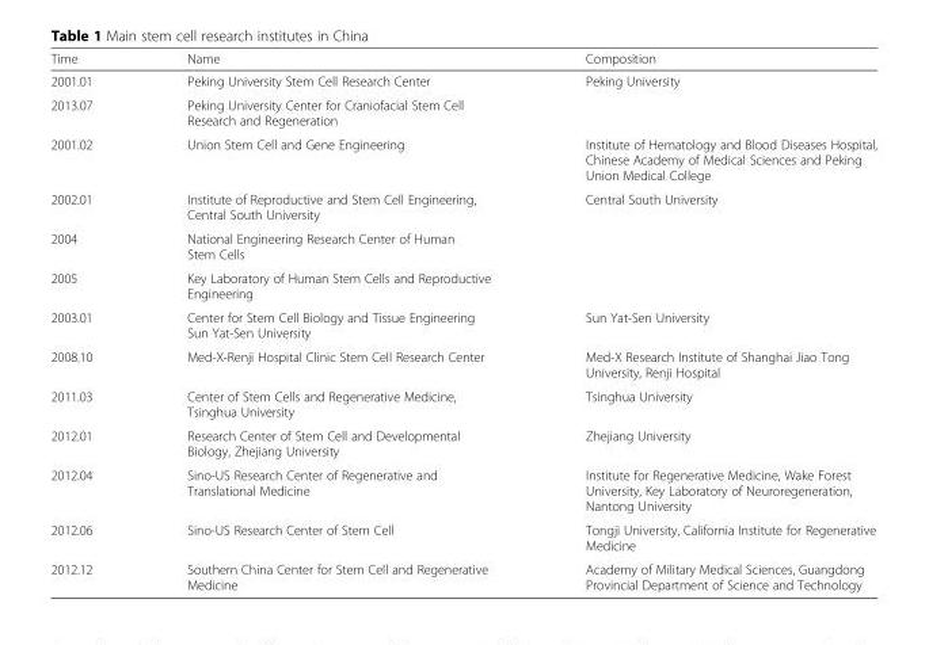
<table><thead><tr><td>Time</td><td>Name</td><td>Composition</td></tr></thead><tbody><tr><td>2001.01</td><td>Peking University Stem Cell Research Center</td><td rowspan="2">Peking University</td></tr><tr><td>2013.07</td><td>Peking University Center for Craniofacial Stem Cell Research and Regeneration</td></tr><tr><td>2001.02</td><td>Union Stem Cell and Gene Engineering</td><td>Institute of Hematology and Blood Diseases Hospital, Chinese Academy of Medical Sciences and Peking Union Medical College</td></tr><tr><td>2002.01</td><td>Institute of Reproductive and Stem Cell Engineering, Central South University</td><td rowspan="3">Central South University</td></tr><tr><td>2004</td><td>National Engineering Research Center of Human Stem Cells</td></tr><tr><td>2005</td><td>Key Laboratory of Human Stem Cells and Reproductive Engineering</td></tr><tr><td>2003.01</td><td>Center for Stem Cell Biology and Tissue Engineering Sun Yat-Sen University</td><td>Sun Yat-Sen University</td></tr><tr><td>2008.10</td><td>Med-X-Renji Hospital Clinic Stem Cell Research Center</td><td>Med-X Research Institute of Shanghai Jiao Tong University, Renji Hospital</td></tr><tr><td>2011.03</td><td>Center of Stem Cells and Regenerative Medicine, Tsinghua University</td><td>Tsinghua University</td></tr><tr><td>2012.01</td><td>Research Center of Stem Cell and Developmental Biology, Zhejiang University</td><td>Zhejiang University</td></tr><tr><td>2012.04</td><td>Sino-US Research Center of Regenerative and Translational Medicine</td><td>Institute for Regenerative Medicine, Wake Forest University, Key Laboratory of Neuroregeneration, Nantong University</td></tr><tr><td>2012.06</td><td>Sino-US Research Center of Stem Cell</td><td>Tongji University, California Institute for Regenerative Medicine</td></tr><tr><td>2012.12</td><td>Southern China Center for Stem Cell and Regenerative Medicine</td><td>Academy of Military Medical Sciences, Guangdong Provincial Department of Science and Technology</td></tr></tbody></table>